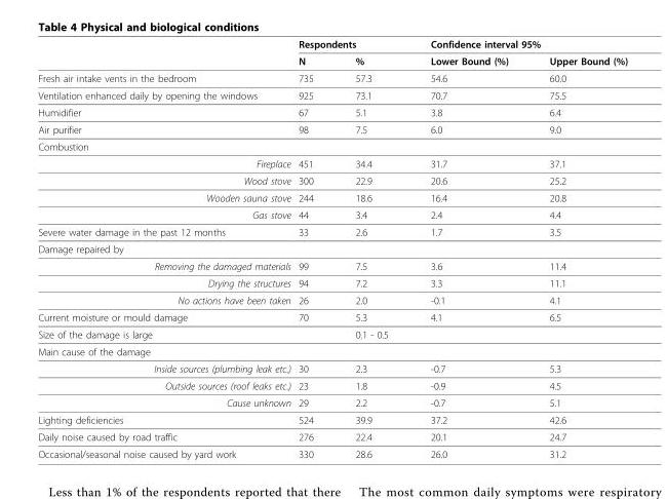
<table><thead><tr><td rowspan="2"></td><td colspan="2">Respondents</td><td colspan="2">Confidence interval 95%</td></tr><tr><td>N</td><td>%</td><td>Lower Bound (%)</td><td>Upper Bound (%)</td></tr></thead><tbody><tr><td>Fresh air intake vents in the bedroom</td><td>735</td><td>57.3</td><td>54.6</td><td>60.0</td></tr><tr><td>Ventilation enhanced daily by opening the windows</td><td>925</td><td>73.1</td><td>70.7</td><td>75.5</td></tr><tr><td>Humidifier</td><td>67</td><td>5.1</td><td>3.8</td><td>6.4</td></tr><tr><td>Air purifier</td><td>98</td><td>7.5</td><td>6.0</td><td>9.0</td></tr><tr><td colspan="5">Combustion</td></tr><tr><td>Fireplace</td><td>451</td><td>34.4</td><td>31.7</td><td>37.1</td></tr><tr><td>Wood stove</td><td>300</td><td>22.9</td><td>20.6</td><td>25.2</td></tr><tr><td>Wooden sauna stove</td><td>244</td><td>18.6</td><td>16.4</td><td>20.8</td></tr><tr><td>Gas stove</td><td>44</td><td>3.4</td><td>2.4</td><td>4.4</td></tr><tr><td>Severe water damage in the past 12 months</td><td>33</td><td>2.6</td><td>1.7</td><td>3.5</td></tr><tr><td colspan="5">Damage repaired by</td></tr><tr><td>Removing the damaged materials</td><td>99</td><td>7.5</td><td>3.6</td><td>11.4</td></tr><tr><td>Drying the structures</td><td>94</td><td>7.2</td><td>3.3</td><td>11.1</td></tr><tr><td>No actions have been taken</td><td>26</td><td>2.0</td><td>-0.1</td><td>4.1</td></tr><tr><td>Current moisture or mould damage</td><td>70</td><td>5.3</td><td>4.1</td><td>6.5</td></tr><tr><td>Size of the damage is large</td><td></td><td>0.1 - 0.5</td><td></td><td></td></tr><tr><td colspan="5">Main cause of the damage</td></tr><tr><td>Inside sources (plumbing leak etc.)</td><td>30</td><td>2.3</td><td>-0.7</td><td>5.3</td></tr><tr><td>Outside sources (roof leaks etc.)</td><td>23</td><td>1.8</td><td>-0.9</td><td>4.5</td></tr><tr><td>Cause unknown</td><td>29</td><td>2.2</td><td>-0.7</td><td>5.1</td></tr><tr><td>Lighting deficiencies</td><td>524</td><td>39.9</td><td>37.2</td><td>42.6</td></tr><tr><td>Daily noise caused by road traffic</td><td>276</td><td>22.4</td><td>20.1</td><td>24.7</td></tr><tr><td>Occasional/seasonal noise caused by yard work</td><td>330</td><td>28.6</td><td>26.0</td><td>31.2</td></tr></tbody></table>